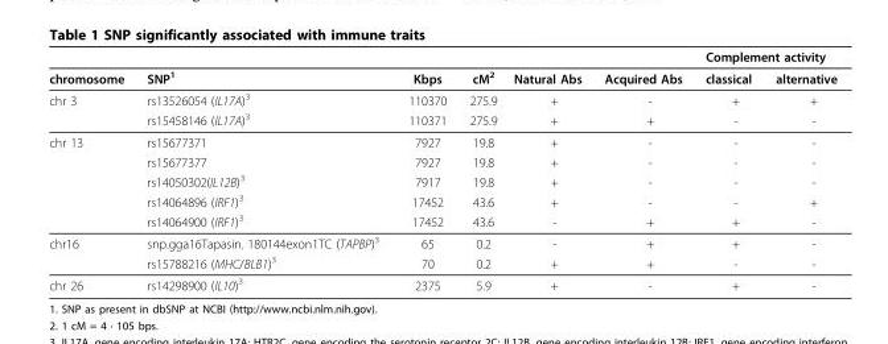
<table><thead><tr><td rowspan="2">chromosome</td><td rowspan="2">SNP<sup>1</sup></td><td rowspan="2">Kbps</td><td rowspan="2">cM<sup>2</sup></td><td rowspan="2">Natural Abs</td><td rowspan="2">Acquired Abs</td><td colspan="2">Complement activity</td></tr><tr><td>classical</td><td>alternative</td></tr></thead><tbody><tr><td rowspan="2">chr 3</td><td>rs13526054 (IL17A)<sup>3</sup></td><td>110370</td><td>275.9</td><td>+</td><td>-</td><td>+</td><td>+</td></tr><tr><td>rs15458146 (IL17A)<sup>3</sup></td><td>110371</td><td>275.9</td><td>+</td><td>+</td><td>-</td><td>-</td></tr><tr><td rowspan="5">chr 13</td><td>rs15677371</td><td>7927</td><td>19.8</td><td>+</td><td>-</td><td>-</td><td>-</td></tr><tr><td>rs15677377</td><td>7927</td><td>19.8</td><td>+</td><td>-</td><td>-</td><td>-</td></tr><tr><td>rs14050302(IL12B)<sup>3</sup></td><td>7917</td><td>19.8</td><td>+</td><td>-</td><td>-</td><td>-</td></tr><tr><td>rs14064896 (IRF1)<sup>3</sup></td><td>17452</td><td>43.6</td><td>+</td><td>-</td><td>-</td><td>+</td></tr><tr><td>rs14064900 (IRF1)<sup>3</sup></td><td>17452</td><td>43.6</td><td>-</td><td>+</td><td>+</td><td>-</td></tr><tr><td rowspan="2">chr16</td><td>snp.gga16Tapasin. 180144exon1TC (TAPBP)<sup>3</sup></td><td>65</td><td>0.2</td><td>-</td><td>+</td><td>+</td><td>-</td></tr><tr><td>rs15788216 (MHC/BLB1)<sup>3</sup></td><td>70</td><td>0.2</td><td>+</td><td>+</td><td>-</td><td>-</td></tr><tr><td>chr 26</td><td>rs14298900 (IL10)<sup>3</sup></td><td>2375</td><td>5.9</td><td>+</td><td>-</td><td>+</td><td>-</td></tr></tbody></table>